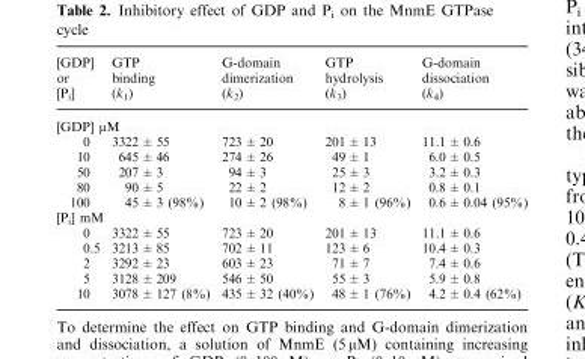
<table><thead><tr><td>[GDP] or [P<sub>i</sub>]</td><td>GTP binding (k<sub>1</sub>)</td><td>G-domain dimerization (k<sub>2</sub>)</td><td>GTP hydrolysis (k<sub>3</sub>)</td><td>G-domain dissociation (k<sub>4</sub>)</td></tr></thead><tbody><tr><td colspan="5">[GDP] μM</td></tr><tr><td>0</td><td>3322 ± 55</td><td>723 ± 20</td><td>201 ± 13</td><td>11.1 ± 0.6</td></tr><tr><td>10</td><td>645 ± 46</td><td>274 ± 26</td><td>49 ± 1</td><td>6.0 ± 0.5</td></tr><tr><td>50</td><td>207 ± 3</td><td>94 ± 3</td><td>25 ± 3</td><td>3.2 ± 0.3</td></tr><tr><td>80</td><td>90 ± 5</td><td>22 ± 2</td><td>12 ± 2</td><td>0.8 ± 0.1</td></tr><tr><td>100</td><td>45 ± 3 (98%)</td><td>10 ± 2 (98%)</td><td>8 ± 1 (96%)</td><td>0.6 ± 0.04 (95%)</td></tr><tr><td colspan="5">[P<sub>i</sub>] mM</td></tr><tr><td>0</td><td>3322 ± 55</td><td>723 ± 20</td><td>201 ± 13</td><td>11.1 ± 0.6</td></tr><tr><td>0.5</td><td>3213 ± 85</td><td>702 ± 11</td><td>123 ± 6</td><td>10.4 ± 0.3</td></tr><tr><td>2</td><td>3292 ± 23</td><td>603 ± 23</td><td>71 ± 7</td><td>7.4 ± 0.6</td></tr><tr><td>5</td><td>3128 ± 209</td><td>546 ± 50</td><td>55 ± 3</td><td>5.9 ± 0.8</td></tr><tr><td>10</td><td>3078 ± 127 (8%)</td><td>435 ± 32 (40%)</td><td>48 ± 1 (76%)</td><td>4.2 ± 0.4 (62%)</td></tr></tbody></table>